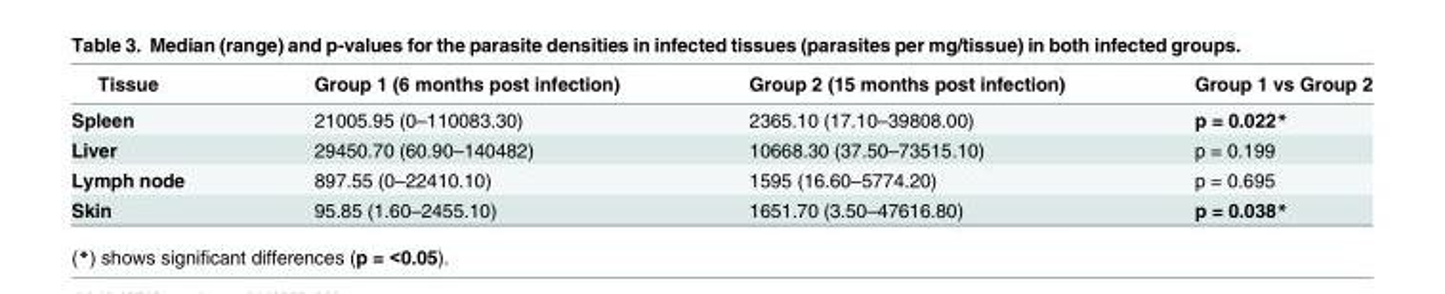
<table><thead><tr><td>Tissue</td><td>Group 1 (6 months post infection)</td><td>Group 2 (15 months post infection)</td><td>Group 1 vs Group 2</td></tr></thead><tbody><tr><td>Spleen</td><td>21005.95 (0–110083.30)</td><td>2365.10 (17.10–39808.00)</td><td>p = 0.022*</td></tr><tr><td>Liver</td><td>29450.70 (60.90–140482)</td><td>10668.30 (37.50–73515.10)</td><td>p = 0.199</td></tr><tr><td>Lymph node</td><td>897.55 (0–22410.10)</td><td>1595 (16.60–5774.20)</td><td>p = 0.695</td></tr><tr><td>Skin</td><td>95.85 (1.60–2455.10)</td><td>1651.70 (3.50–47616.80)</td><td>p = 0.038*</td></tr></tbody></table>